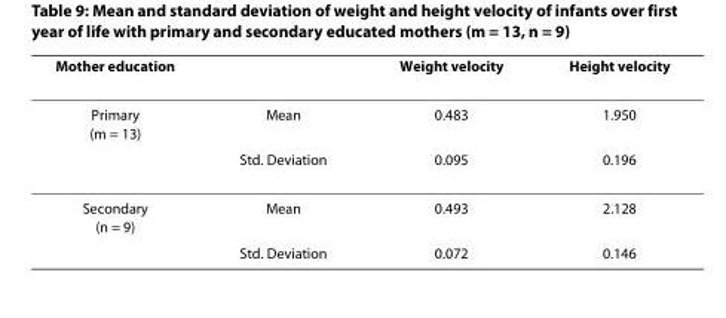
<table><thead><tr><td>Mother education</td><td></td><td>Weight velocity</td><td>Height velocity</td></tr></thead><tbody><tr><td rowspan="2">Primary (m = 13)</td><td>Mean</td><td>0.483</td><td>1.950</td></tr><tr><td>Std. Deviation</td><td>0.095</td><td>0.196</td></tr><tr><td rowspan="2">Secondary (n = 9)</td><td>Mean</td><td>0.493</td><td>2.128</td></tr><tr><td>Std. Deviation</td><td>0.072</td><td>0.146</td></tr></tbody></table>